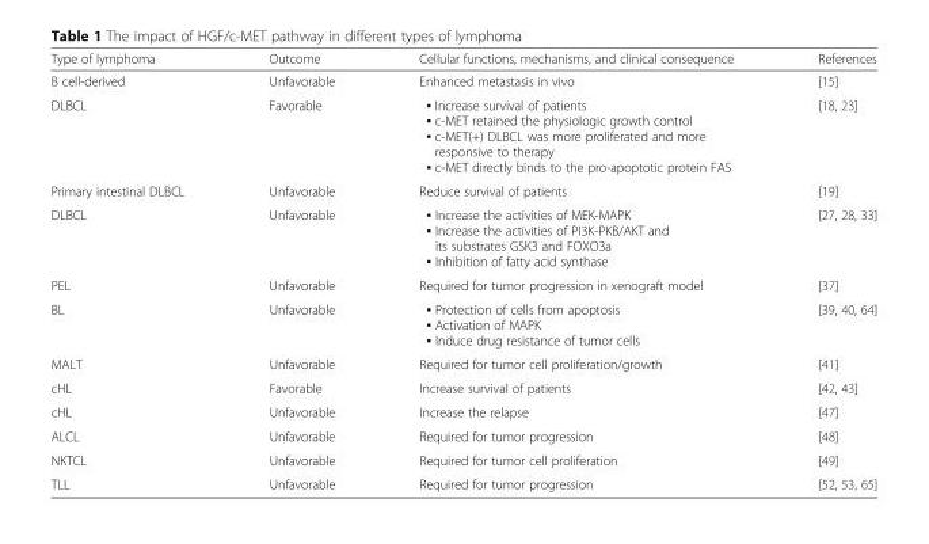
<table><thead><tr><td>Type of lymphoma</td><td>Outcome</td><td>Cellular functions, mechanisms, and clinical consequence</td><td>References</td></tr></thead><tbody><tr><td>B cell-derived</td><td>Unfavorable</td><td>Enhanced metastasis in vivo</td><td>[15]</td></tr><tr><td>DLBCL</td><td>Favorable</td><td>▪ Increase survival of patients ▪ c-MET retained the physiologic growth control ▪ c-MET(+) DLBCL was more proliferated and more responsive to therapy ▪ c-MET directly binds to the pro-apoptotic protein FAS</td><td>[18, 23]</td></tr><tr><td>Primary intestinal DLBCL</td><td>Unfavorable</td><td>Reduce survival of patients</td><td>[19]</td></tr><tr><td>DLBCL</td><td>Unfavorable</td><td>▪ Increase the activities of MEK-MAPK ▪ Increase the activities of PI3K-PKB/AKT and its substrates GSK3 and FOXO3a ▪ Inhibition of fatty acid synthase</td><td>[27, 28, 33]</td></tr><tr><td>PEL</td><td>Unfavorable</td><td>Required for tumor progression in xenograft model</td><td>[37]</td></tr><tr><td>BL</td><td>Unfavorable</td><td>▪ Protection of cells from apoptosis ▪ Activation of MAPK ▪ Induce drug resistance of tumor cells</td><td>[39, 40, 64]</td></tr><tr><td>MALT</td><td>Unfavorable</td><td>Required for tumor cell proliferation/growth</td><td>[41]</td></tr><tr><td>cHL</td><td>Favorable</td><td>Increase survival of patients</td><td>[42, 43]</td></tr><tr><td>cHL</td><td>Unfavorable</td><td>Increase the relapse</td><td>[47]</td></tr><tr><td>ALCL</td><td>Unfavorable</td><td>Required for tumor progression</td><td>[48]</td></tr><tr><td>NKTCL</td><td>Unfavorable</td><td>Required for tumor cell proliferation</td><td>[49]</td></tr><tr><td>TLL</td><td>Unfavorable</td><td>Required for tumor progression</td><td>[52, 53, 65]</td></tr></tbody></table>